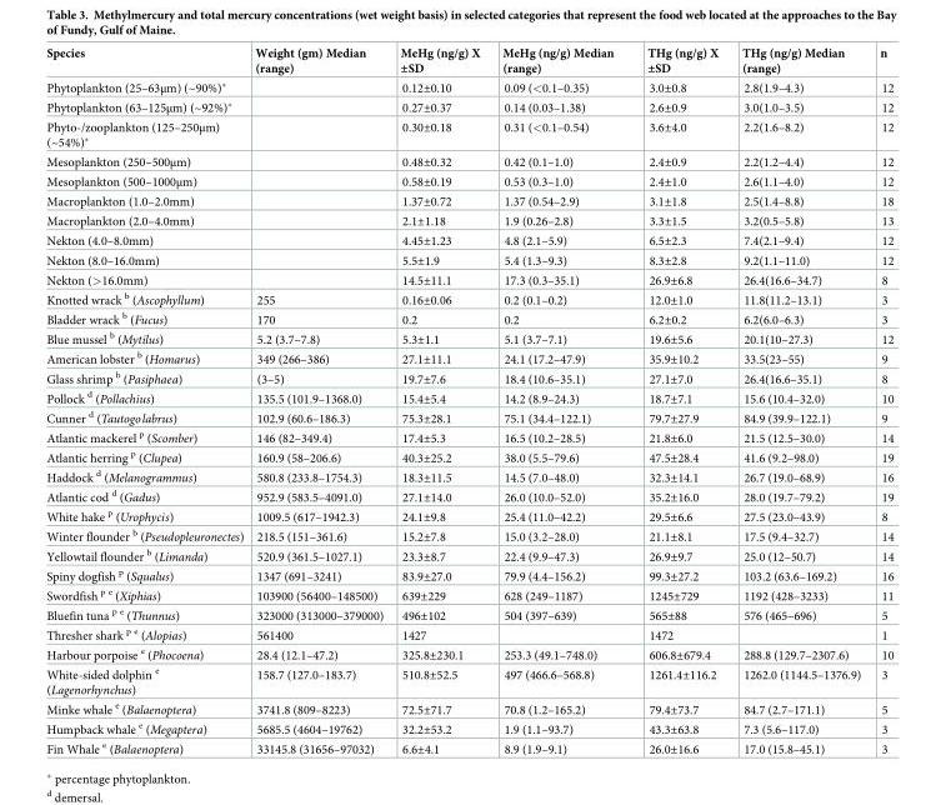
<table><thead><tr><td>Species</td><td>Weight (gm) Median (range)</td><td>MeHg (ng/g) X ±SD</td><td>MeHg (ng/g) Median (range)</td><td>THg (ng/g) X ±SD</td><td>THg (ng/g) Median (range)</td><td>n</td></tr></thead><tbody><tr><td>Phytoplankton (25–63μm) (~90%)*</td><td></td><td>0.12±0.10</td><td>0.09 (&lt;0.1–0.35)</td><td>3.0±0.8</td><td>2.8(1.9–4.3)</td><td>12</td></tr><tr><td>Phytoplankton (63–125μm) (~92%)*</td><td></td><td>0.27±0.37</td><td>0.14 (0.03–1.38)</td><td>2.6±0.9</td><td>3.0(1.0–3.5)</td><td>12</td></tr><tr><td>Phyto-/zooplankton (125–250μm) (~54%)*</td><td></td><td>0.30±0.18</td><td>0.31 (&lt;0.1–0.54)</td><td>3.6±4.0</td><td>2.2(1.6–8.2)</td><td>12</td></tr><tr><td>Mesoplankton (250–500μm)</td><td></td><td>0.48±0.32</td><td>0.42 (0.1–1.0)</td><td>2.4±0.9</td><td>2.2(1.2–4.4)</td><td>12</td></tr><tr><td>Mesoplankton (500–1000μm)</td><td></td><td>0.58±0.19</td><td>0.53 (0.3–1.0)</td><td>2.4±1.0</td><td>2.6(1.1–4.0)</td><td>12</td></tr><tr><td>Macroplankton (1.0–2.0mm)</td><td></td><td>1.37±0.72</td><td>1.37 (0.54–2.9)</td><td>3.1±1.8</td><td>2.5(1.4–8.8)</td><td>18</td></tr><tr><td>Macroplankton (2.0–4.0mm)</td><td></td><td>2.1±1.18</td><td>1.9 (0.26–2.8)</td><td>3.3±1.5</td><td>3.2(0.5–5.8)</td><td>13</td></tr><tr><td>Nekton (4.0–8.0mm)</td><td></td><td>4.45±1.23</td><td>4.8 (2.1–5.9)</td><td>6.5±2.3</td><td>7.4(2.1–9.4)</td><td>12</td></tr><tr><td>Nekton (8.0–16.0mm)</td><td></td><td>5.5±1.9</td><td>5.4 (1.3–9.3)</td><td>8.3±2.8</td><td>9.2(1.1–11.0)</td><td>12</td></tr><tr><td>Nekton (&gt;16.0mm)</td><td></td><td>14.5±11.1</td><td>17.3 (0.3–35.1)</td><td>26.9±6.8</td><td>26.4(16.6–34.7)</td><td>8</td></tr><tr><td>Knotted wrack <sup>b</sup> (Ascophyllum)</td><td>255</td><td>0.16±0.06</td><td>0.2 (0.1–0.2)</td><td>12.0±1.0</td><td>11.8(11.2–13.1)</td><td>3</td></tr><tr><td>Bladder wrack <sup>b</sup> (Fucus)</td><td>170</td><td>0.2</td><td>0.2</td><td>6.2±0.2</td><td>6.2(6.0–6.3)</td><td>3</td></tr><tr><td>Blue mussel <sup>b</sup> (Mytilus)</td><td>5.2 (3.7–7.8)</td><td>5.3±1.1</td><td>5.1 (3.7–7.1)</td><td>19.6±5.6</td><td>20.1(10–27.3)</td><td>12</td></tr><tr><td>American lobster <sup>b</sup> (Homarus)</td><td>349 (266–386)</td><td>27.1±11.1</td><td>24.1 (17.2–47.9)</td><td>35.9±10.2</td><td>33.5(23–55)</td><td>9</td></tr><tr><td>Glass shrimp <sup>b</sup> (Pasiphaea)</td><td>(3–5)</td><td>19.7±7.6</td><td>18.4 (10.6–35.1)</td><td>27.1±7.0</td><td>26.4(16.6–35.1)</td><td>8</td></tr><tr><td>Pollock <sup>d</sup> (Pollachius)</td><td>135.5 (101.9–1368.0)</td><td>15.4±5.4</td><td>14.2 (8.9–24.3)</td><td>18.7±7.1</td><td>15.6 (10.4–32.0)</td><td>10</td></tr><tr><td>Cunner <sup>d</sup> (Tautogolabrus)</td><td>102.9 (60.6–186.3)</td><td>75.3±28.1</td><td>75.1 (34.4–122.1)</td><td>79.7±27.9</td><td>84.9 (39.9–122.1)</td><td>9</td></tr><tr><td>Atlantic mackerel <sup>p</sup> (Scomber)</td><td>146 (82–349.4)</td><td>17.4±5.3</td><td>16.5 (10.2–28.5)</td><td>21.8±6.0</td><td>21.5 (12.5–30.0)</td><td>14</td></tr><tr><td>Atlantic herring <sup>p</sup> (Clupea)</td><td>160.9 (58–206.6)</td><td>40.3±25.2</td><td>38.0 (5.5–79.6)</td><td>47.5±28.4</td><td>41.6 (9.2–98.0)</td><td>19</td></tr><tr><td>Haddock <sup>d</sup> (Melanogrammus)</td><td>580.8 (233.8–1754.3)</td><td>18.3±11.5</td><td>14.5 (7.0–48.0)</td><td>32.3±14.1</td><td>26.7 (19.0–68.9)</td><td>16</td></tr><tr><td>Atlantic cod <sup>d</sup> (Gadus)</td><td>952.9 (583.5–4091.0)</td><td>27.1±14.0</td><td>26.0 (10.0–52.0)</td><td>35.2±16.0</td><td>28.0 (19.7–79.2)</td><td>19</td></tr><tr><td>White hake <sup>p</sup> (Urophycis)</td><td>1009.5 (617–1942.3)</td><td>24.1±9.8</td><td>25.4 (11.0–42.2)</td><td>29.5±6.6</td><td>27.5 (23.0–43.9)</td><td>8</td></tr><tr><td>Winter flounder <sup>b</sup> (Pseudopleuronectes)</td><td>218.5 (151–361.6)</td><td>15.2±7.8</td><td>15.0 (3.2–28.0)</td><td>21.1±8.1</td><td>17.5 (9.4–32.7)</td><td>14</td></tr><tr><td>Yellowtail flounder <sup>b</sup> (Limanda)</td><td>520.9 (361.5–1027.1)</td><td>23.3±8.7</td><td>22.4 (9.9–47.3)</td><td>26.9±9.7</td><td>25.0 (12–50.7)</td><td>14</td></tr><tr><td>Spiny dogfish <sup>p</sup> (Squalus)</td><td>1347 (691–3241)</td><td>83.9±27.0</td><td>79.9 (4.4–156.2)</td><td>99.3±27.2</td><td>103.2 (63.6–169.2)</td><td>16</td></tr><tr><td>Swordfish <sup>p e</sup> (Xiphias)</td><td>103900 (56400–148500)</td><td>639±229</td><td>628 (249–1187)</td><td>1245±729</td><td>1192 (428–3233)</td><td>11</td></tr><tr><td>Bluefin tuna <sup>p e</sup> (Thunnus)</td><td>323000 (313000–379000)</td><td>496±102</td><td>504 (397–639)</td><td>565±88</td><td>576 (465–696)</td><td>5</td></tr><tr><td>Thresher shark <sup>p e</sup> (Alopias)</td><td>561400</td><td>1427</td><td></td><td>1472</td><td></td><td>1</td></tr><tr><td>Harbour porpoise <sup>e</sup> (Phocoena)</td><td>28.4 (12.1–47.2)</td><td>325.8±230.1</td><td>253.3 (49.1–748.0)</td><td>606.8±679.4</td><td>288.8 (129.7–2307.6)</td><td>10</td></tr><tr><td>White-sided dolphin <sup>e</sup> (Lagenorhynchus)</td><td>158.7 (127.0–183.7)</td><td>510.8±52.5</td><td>497 (466.6–568.8)</td><td>1261.4±116.2</td><td>1262.0 (1144.5–1376.9)</td><td>3</td></tr><tr><td>Minke whale <sup>e</sup> (Balaenoptera)</td><td>3741.8 (809–8223)</td><td>72.5±71.7</td><td>70.8 (1.2–165.2)</td><td>79.4±73.7</td><td>84.7 (2.7–171.1)</td><td>5</td></tr><tr><td>Humpback whale <sup>e</sup> (Megaptera)</td><td>5685.5 (4604–19762)</td><td>32.2±53.2</td><td>1.9 (1.1–93.7)</td><td>43.3±63.8</td><td>7.3 (5.6–117.0)</td><td>3</td></tr><tr><td>Fin Whale <sup>e</sup> (Balaenoptera)</td><td>33145.8 (31656–97032)</td><td>6.6±4.1</td><td>8.9 (1.9–9.1)</td><td>26.0±16.6</td><td>17.0 (15.8–45.1)</td><td>3</td></tr></tbody></table>